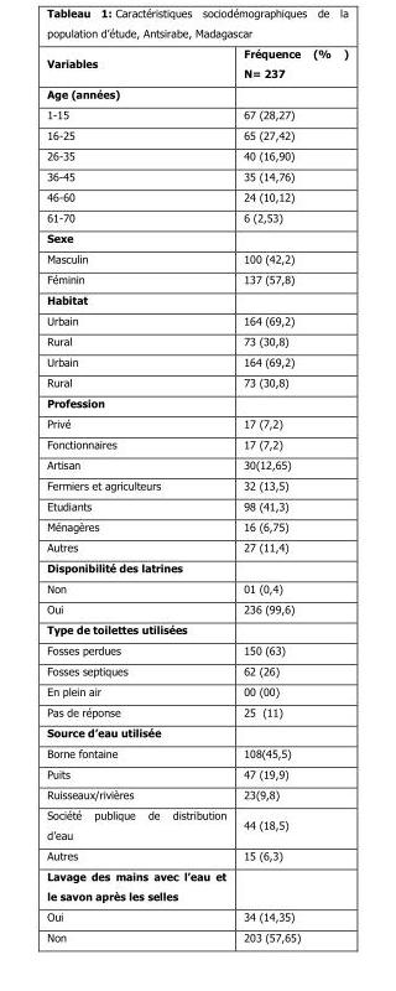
<table><thead><tr><td>Variables</td><td>Fréquence (% ) N= 237</td></tr></thead><tbody><tr><td colspan="2">Age (années)</td></tr><tr><td>1-15</td><td>67 (28,27)</td></tr><tr><td>16-25</td><td>65 (27,42)</td></tr><tr><td>26-35</td><td>40 (16,90)</td></tr><tr><td>36-45</td><td>35 (14,76)</td></tr><tr><td>46-60</td><td>24 (10,12)</td></tr><tr><td>61-70</td><td>6 (2,53)</td></tr><tr><td colspan="2">Sexe</td></tr><tr><td>Masculin</td><td>100 (42,2)</td></tr><tr><td>Féminin</td><td>137 (57,8)</td></tr><tr><td colspan="2">Habitat</td></tr><tr><td>Urbain</td><td>164 (69,2)</td></tr><tr><td>Rural</td><td>73 (30,8)</td></tr><tr><td>Urbain</td><td>164 (69,2)</td></tr><tr><td>Rural</td><td>73 (30,8)</td></tr><tr><td colspan="2">Profession</td></tr><tr><td>Privé</td><td>17 (7,2)</td></tr><tr><td>Fonctionnaires</td><td>17 (7,2)</td></tr><tr><td>Artisan</td><td>30(12,65)</td></tr><tr><td>Fermiers et agriculteurs</td><td>32 (13,5)</td></tr><tr><td>Etudiants</td><td>98 (41,3)</td></tr><tr><td>Ménagères</td><td>16 (6,75)</td></tr><tr><td>Autres</td><td>27 (11,4)</td></tr><tr><td colspan="2">Disponibilité des latrines</td></tr><tr><td>Non</td><td>01 (0,4)</td></tr><tr><td>Oui</td><td>236 (99,6)</td></tr><tr><td colspan="2">Type de toilettes utilisées</td></tr><tr><td>Fosses perdues</td><td>150 (63)</td></tr><tr><td>Fosses septiques</td><td>62 (26)</td></tr><tr><td>En plein air</td><td>00 (00)</td></tr><tr><td>Pas de réponse</td><td>25 (11)</td></tr><tr><td colspan="2">Source d’eau utilisée</td></tr><tr><td>Borne fontaine</td><td>108(45,5)</td></tr><tr><td>Puits</td><td>47 (19,9)</td></tr><tr><td>Ruisseaux/rivières</td><td>23(9,8)</td></tr><tr><td>Société publique de distribution d’eau</td><td>44 (18,5)</td></tr><tr><td>Autres</td><td>15 (6,3)</td></tr><tr><td colspan="2">Lavage des mains avec l’eau et le savon après les selles</td></tr><tr><td>Oui</td><td>34 (14,35)</td></tr><tr><td>Non</td><td>203 (57,65)</td></tr></tbody></table>